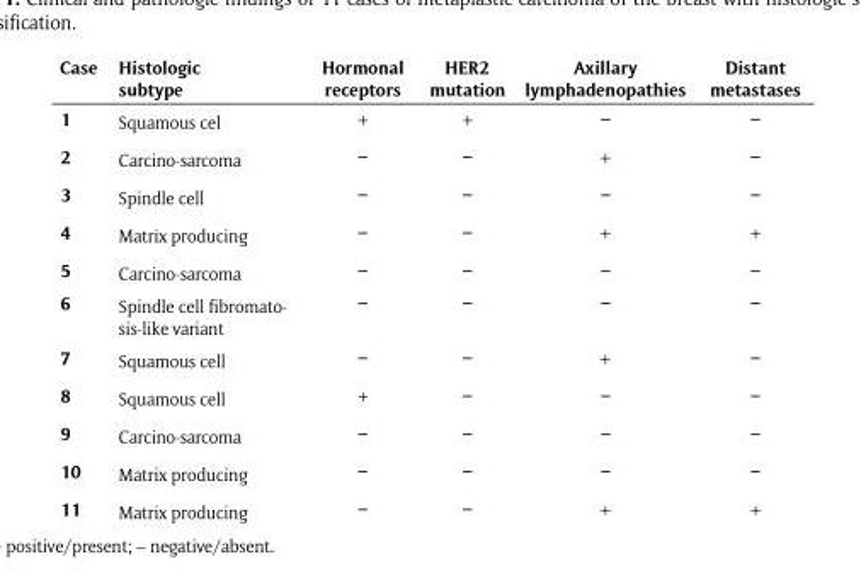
<table><thead><tr><td>Case</td><td>Histologic subtype</td><td>Hormonal receptors</td><td>HER2 mutation</td><td>Axillary lymphadenopathies</td><td>Distant metastases</td></tr></thead><tbody><tr><td>1</td><td>Squamous cel</td><td>+</td><td>+</td><td>–</td><td>–</td></tr><tr><td>2</td><td>Carcino-sarcoma</td><td>–</td><td>–</td><td>+</td><td>–</td></tr><tr><td>3</td><td>Spindle cell</td><td>–</td><td>–</td><td>–</td><td>–</td></tr><tr><td>4</td><td>Matrix producing</td><td>–</td><td>–</td><td>+</td><td>+</td></tr><tr><td>5</td><td>Carcino-sarcoma</td><td>–</td><td>–</td><td>–</td><td>–</td></tr><tr><td>6</td><td>Spindle cell fibromato- sis-like variant</td><td>–</td><td>–</td><td>–</td><td>–</td></tr><tr><td>7</td><td>Squamous cell</td><td>–</td><td>–</td><td>+</td><td>–</td></tr><tr><td>8</td><td>Squamous cell</td><td>+</td><td>–</td><td>–</td><td>–</td></tr><tr><td>9</td><td>Carcino-sarcoma</td><td>–</td><td>–</td><td>–</td><td>–</td></tr><tr><td>10</td><td>Matrix producing</td><td>–</td><td>–</td><td>–</td><td>–</td></tr><tr><td>11</td><td>Matrix producing</td><td>–</td><td>–</td><td>+</td><td>+</td></tr></tbody></table>